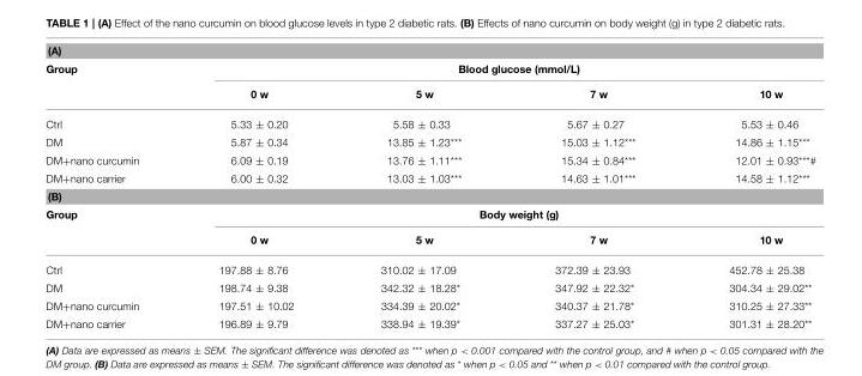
<table><thead><tr><td colspan="5">(A)</td></tr><tr><td rowspan="2">Group</td><td colspan="4">Blood glucose (mmol/L)</td></tr><tr><td>0 w</td><td>5 w</td><td>7 w</td><td>10 w</td></tr></thead><tbody><tr><td>Ctrl</td><td>5.33 ± 0.20</td><td>5.58 ± 0.33</td><td>5.67 ± 0.27</td><td>5.53 ± 0.46</td></tr><tr><td>DM</td><td>5.87 ± 0.34</td><td>13.85 ± 1.23***</td><td>15.03 ± 1.12***</td><td>14.86 ± 1.15***</td></tr><tr><td>DM+nano curcumin</td><td>6.09 ± 0.19</td><td>13.76 ± 1.11***</td><td>15.34 ± 0.84***</td><td>12.01 ± 0.93<sup>***#</sup></td></tr><tr><td>DM+nano carrier</td><td>6.00 ± 0.32</td><td>13.03 ± 1.03***</td><td>14.63 ± 1.01***</td><td>14.58 ± 1.12***</td></tr><tr><td colspan="5">(B)</td></tr><tr><td rowspan="2">Group</td><td colspan="4">Body weight (g)</td></tr><tr><td>0 w</td><td>5 w</td><td>7 w</td><td>10 w</td></tr><tr><td>Ctrl</td><td>197.88 ± 8.76</td><td>310.02 ± 17.09</td><td>372.39 ± 23.93</td><td>452.78 ± 25.38</td></tr><tr><td>DM</td><td>198.74 ± 9.38</td><td>342.32 ± 18.28*</td><td>347.92 ± 22.32*</td><td>304.34 ± 29.02**</td></tr><tr><td>DM+nano curcumin</td><td>197.51 ± 10.02</td><td>334.39 ± 20.02*</td><td>340.37 ± 21.78*</td><td>310.25 ± 27.33**</td></tr><tr><td>DM+nano carrier</td><td>196.89 ± 9.79</td><td>338.94 ± 19.39*</td><td>337.27 ± 25.03*</td><td>301.31 ± 28.20**</td></tr></tbody></table>